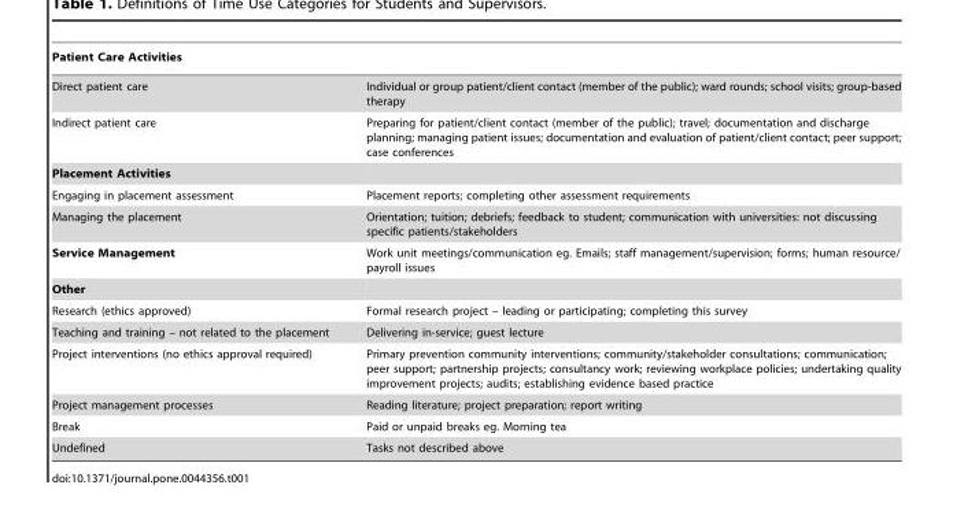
<table><thead><tr><td>Patient Care Activities</td><td></td></tr></thead><tbody><tr><td>Direct patient care</td><td>Individual or group patient/client contact (member of the public); ward rounds; school visits; group-based therapy</td></tr><tr><td>Indirect patient care</td><td>Preparing for patient/client contact (member of the public); travel; documentation and discharge planning; managing patient issues; documentation and evaluation of patient/client contact; peer support; case conferences</td></tr><tr><td colspan="2">Placement Activities</td></tr><tr><td>Engaging in placement assessment</td><td>Placement reports; completing other assessment requirements</td></tr><tr><td>Managing the placement</td><td>Orientation; tuition; debriefs; feedback to student; communication with universities: not discussing specific patients/stakeholders</td></tr><tr><td>Service Management</td><td>Work unit meetings/communication eg. Emails; staff management/supervision; forms; human resource/ payroll issues</td></tr><tr><td colspan="2">Other</td></tr><tr><td>Research (ethics approved)</td><td>Formal research project – leading or participating; completing this survey</td></tr><tr><td>Teaching and training – not related to the placement</td><td>Delivering in-service; guest lecture</td></tr><tr><td>Project interventions (no ethics approval required)</td><td>Primary prevention community interventions; community/stakeholder consultations; communication; peer support; partnership projects; consultancy work; reviewing workplace policies; undertaking quality improvement projects; audits; establishing evidence based practice</td></tr><tr><td>Project management processes</td><td>Reading literature; project preparation; report writing</td></tr><tr><td>Break</td><td>Paid or unpaid breaks eg. Morning tea</td></tr><tr><td>Undefined</td><td>Tasks not described above</td></tr></tbody></table>